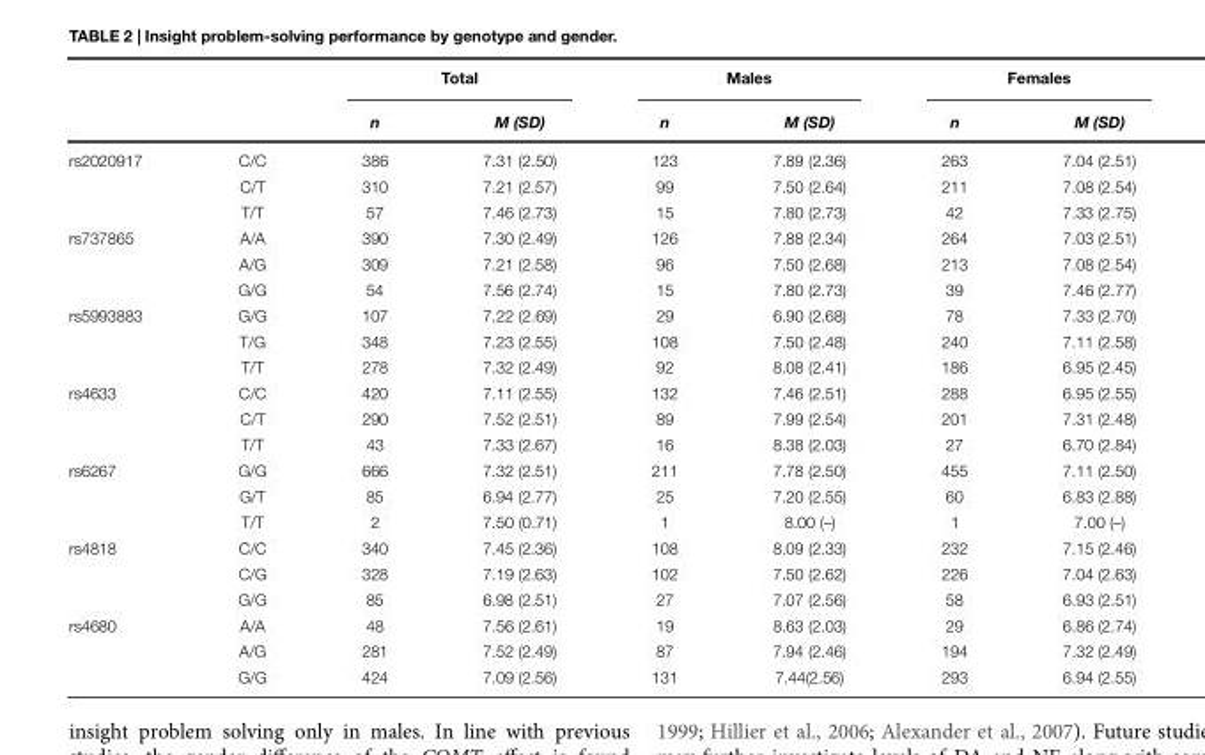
<table><thead><tr><td rowspan="2"></td><td rowspan="2"></td><td colspan="2">Total</td><td colspan="2">Males</td><td colspan="2">Females</td></tr><tr><td>n</td><td>M (SD)</td><td>n</td><td>M (SD)</td><td>n</td><td>M (SD)</td></tr></thead><tbody><tr><td rowspan="3">rs2020917</td><td>C/C</td><td>386</td><td>7.31 (2.50)</td><td>123</td><td>7.89 (2.36)</td><td>263</td><td>7.04 (2.51)</td></tr><tr><td>C/T</td><td>310</td><td>7.21 (2.57)</td><td>99</td><td>7.50 (2.64)</td><td>211</td><td>7.08 (2.54)</td></tr><tr><td>T/T</td><td>57</td><td>7.46 (2.73)</td><td>15</td><td>7.80 (2.73)</td><td>42</td><td>7.33 (2.75)</td></tr><tr><td rowspan="3">rs737865</td><td>A/A</td><td>390</td><td>7.30 (2.49)</td><td>126</td><td>7.88 (2.34)</td><td>264</td><td>7.03 (2.51)</td></tr><tr><td>A/G</td><td>309</td><td>7.21 (2.58)</td><td>96</td><td>7.50 (2.68)</td><td>213</td><td>7.08 (2.54)</td></tr><tr><td>G/G</td><td>54</td><td>7.56 (2.74)</td><td>15</td><td>7.80 (2.73)</td><td>39</td><td>7.46 (2.77)</td></tr><tr><td rowspan="3">rs5993883</td><td>G/G</td><td>107</td><td>7.22 (2.69)</td><td>29</td><td>6.90 (2.68)</td><td>78</td><td>7.33 (2.70)</td></tr><tr><td>T/G</td><td>348</td><td>7.23 (2.55)</td><td>108</td><td>7.50 (2.48)</td><td>240</td><td>7.11 (2.58)</td></tr><tr><td>T/T</td><td>278</td><td>7.32 (2.49)</td><td>92</td><td>8.08 (2.41)</td><td>186</td><td>6.95 (2.45)</td></tr><tr><td rowspan="3">rs4633</td><td>C/C</td><td>420</td><td>7.11 (2.55)</td><td>132</td><td>7.46 (2.51)</td><td>288</td><td>6.95 (2.55)</td></tr><tr><td>C/T</td><td>290</td><td>7.52 (2.51)</td><td>89</td><td>7.99 (2.54)</td><td>201</td><td>7.31 (2.48)</td></tr><tr><td>T/T</td><td>43</td><td>7.33 (2.67)</td><td>16</td><td>8.38 (2.03)</td><td>27</td><td>6.70 (2.84)</td></tr><tr><td rowspan="3">rs6267</td><td>G/G</td><td>666</td><td>7.32 (2.51)</td><td>211</td><td>7.78 (2.50)</td><td>455</td><td>7.11 (2.50)</td></tr><tr><td>G/T</td><td>85</td><td>6.94 (2.77)</td><td>25</td><td>7.20 (2.55)</td><td>60</td><td>6.83 (2.88)</td></tr><tr><td>T/T</td><td>2</td><td>7.50 (0.71)</td><td>1</td><td>8.00 (–)</td><td>1</td><td>7.00 (–)</td></tr><tr><td rowspan="3">rs4818</td><td>C/C</td><td>340</td><td>7.45 (2.36)</td><td>108</td><td>8.09 (2.33)</td><td>232</td><td>7.15 (2.46)</td></tr><tr><td>C/G</td><td>328</td><td>7.19 (2.63)</td><td>102</td><td>7.50 (2.62)</td><td>226</td><td>7.04 (2.63)</td></tr><tr><td>G/G</td><td>85</td><td>6.98 (2.51)</td><td>27</td><td>7.07 (2.56)</td><td>58</td><td>6.93 (2.51)</td></tr><tr><td rowspan="3">rs4680</td><td>A/A</td><td>48</td><td>7.56 (2.61)</td><td>19</td><td>8.63 (2.03)</td><td>29</td><td>6.86 (2.74)</td></tr><tr><td>A/G</td><td>281</td><td>7.52 (2.49)</td><td>87</td><td>7.94 (2.46)</td><td>194</td><td>7.32 (2.49)</td></tr><tr><td>G/G</td><td>424</td><td>7.09 (2.56)</td><td>131</td><td>7.44(2.56)</td><td>293</td><td>6.94 (2.55)</td></tr></tbody></table>